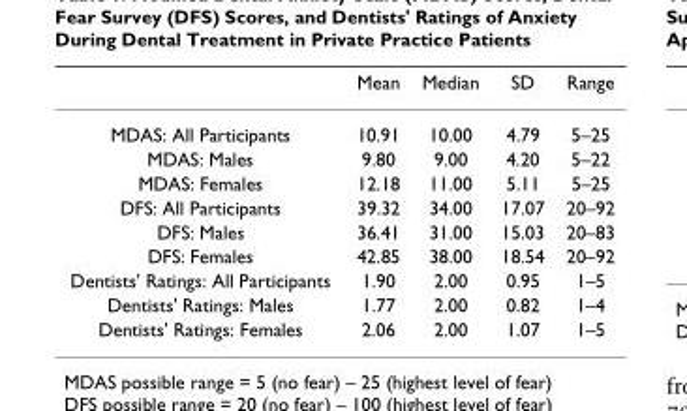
<table><thead><tr><td></td><td>Mean</td><td>Median</td><td>SD</td><td>Range</td></tr></thead><tbody><tr><td>MDAS: All Participants</td><td>10.91</td><td>10.00</td><td>4.79</td><td>5–25</td></tr><tr><td>MDAS: Males</td><td>9.80</td><td>9.00</td><td>4.20</td><td>5–22</td></tr><tr><td>MDAS: Females</td><td>12.18</td><td>11.00</td><td>5.11</td><td>5–25</td></tr><tr><td>DFS: All Participants</td><td>39.32</td><td>34.00</td><td>17.07</td><td>20–92</td></tr><tr><td>DFS: Males</td><td>36.41</td><td>31.00</td><td>15.03</td><td>20–83</td></tr><tr><td>DFS: Females</td><td>42.85</td><td>38.00</td><td>18.54</td><td>20–92</td></tr><tr><td>Dentists&#x27; Ratings: All Participants</td><td>1.90</td><td>2.00</td><td>0.95</td><td>1–5</td></tr><tr><td>Dentists&#x27; Ratings: Males</td><td>1.77</td><td>2.00</td><td>0.82</td><td>1–4</td></tr><tr><td>Dentists&#x27; Ratings: Females</td><td>2.06</td><td>2.00</td><td>1.07</td><td>1–5</td></tr></tbody></table>